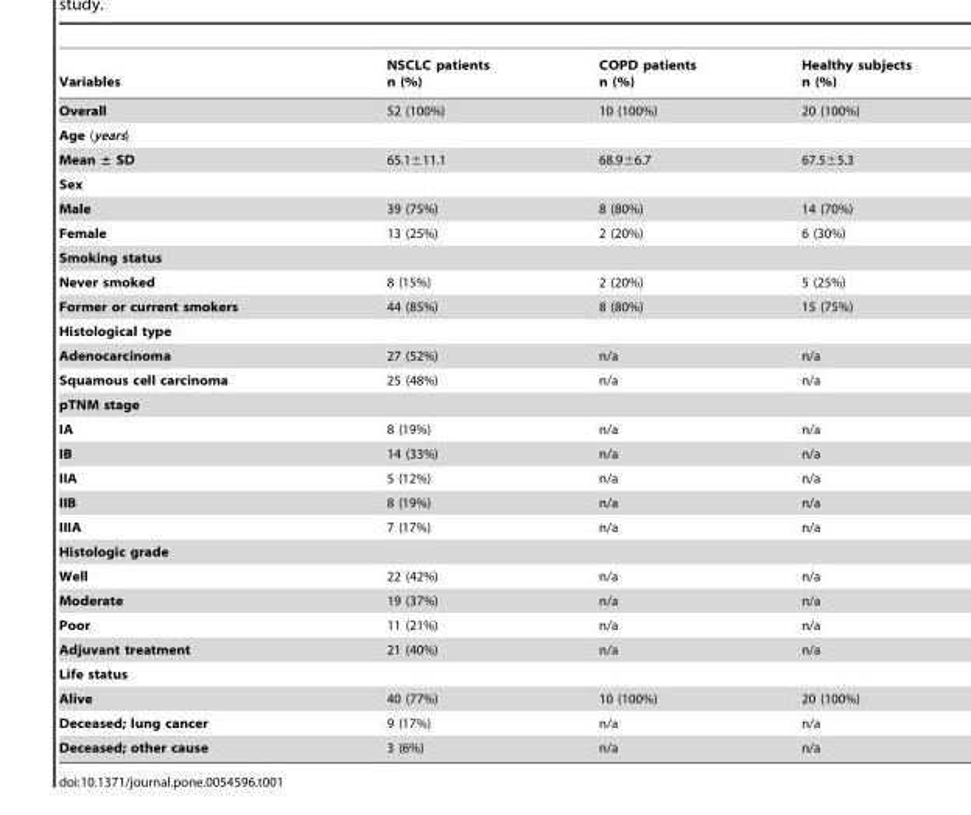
<table><thead><tr><td>Variables</td><td>NSCLC patients n (%)</td><td>COPD patients n (%)</td><td>Healthy subjects n (%)</td></tr></thead><tbody><tr><td>Overall</td><td>52 (100%)</td><td>10 (100%)</td><td>20 (100%)</td></tr><tr><td colspan="4">Age (years)</td></tr><tr><td>Mean ± SD</td><td>65.1±11.1</td><td>68.9±6.7</td><td>67.5±5.3</td></tr><tr><td colspan="4">Sex</td></tr><tr><td>Male</td><td>39 (75%)</td><td>8 (80%)</td><td>14 (70%)</td></tr><tr><td>Female</td><td>13 (25%)</td><td>2 (20%)</td><td>6 (30%)</td></tr><tr><td colspan="4">Smoking status</td></tr><tr><td>Never smoked</td><td>8 (15%)</td><td>2 (20%)</td><td>5 (25%)</td></tr><tr><td>Former or current smokers</td><td>44 (85%)</td><td>8 (80%)</td><td>15 (75%)</td></tr><tr><td colspan="4">Histological type</td></tr><tr><td>Adenocarcinoma</td><td>27 (52%)</td><td>n/a</td><td>n/a</td></tr><tr><td>Squamous cell carcinoma</td><td>25 (48%)</td><td>n/a</td><td>n/a</td></tr><tr><td colspan="4">pTNM stage</td></tr><tr><td>IA</td><td>8 (19%)</td><td>n/a</td><td>n/a</td></tr><tr><td>IB</td><td>14 (33%)</td><td>n/a</td><td>n/a</td></tr><tr><td>IIA</td><td>5 (12%)</td><td>n/a</td><td>n/a</td></tr><tr><td>IIB</td><td>8 (19%)</td><td>n/a</td><td>n/a</td></tr><tr><td>IIIA</td><td>7 (17%)</td><td>n/a</td><td>n/a</td></tr><tr><td colspan="4">Histologic grade</td></tr><tr><td>Well</td><td>22 (42%)</td><td>n/a</td><td>n/a</td></tr><tr><td>Moderate</td><td>19 (37%)</td><td>n/a</td><td>n/a</td></tr><tr><td>Poor</td><td>11 (21%)</td><td>n/a</td><td>n/a</td></tr><tr><td>Adjuvant treatment</td><td>21 (40%)</td><td>n/a</td><td>n/a</td></tr><tr><td colspan="4">Life status</td></tr><tr><td>Alive</td><td>40 (77%)</td><td>10 (100%)</td><td>20 (100%)</td></tr><tr><td>Deceased; lung cancer</td><td>9 (17%)</td><td>n/a</td><td>n/a</td></tr><tr><td>Deceased; other cause</td><td>3 (6%)</td><td>n/a</td><td>n/a</td></tr></tbody></table>